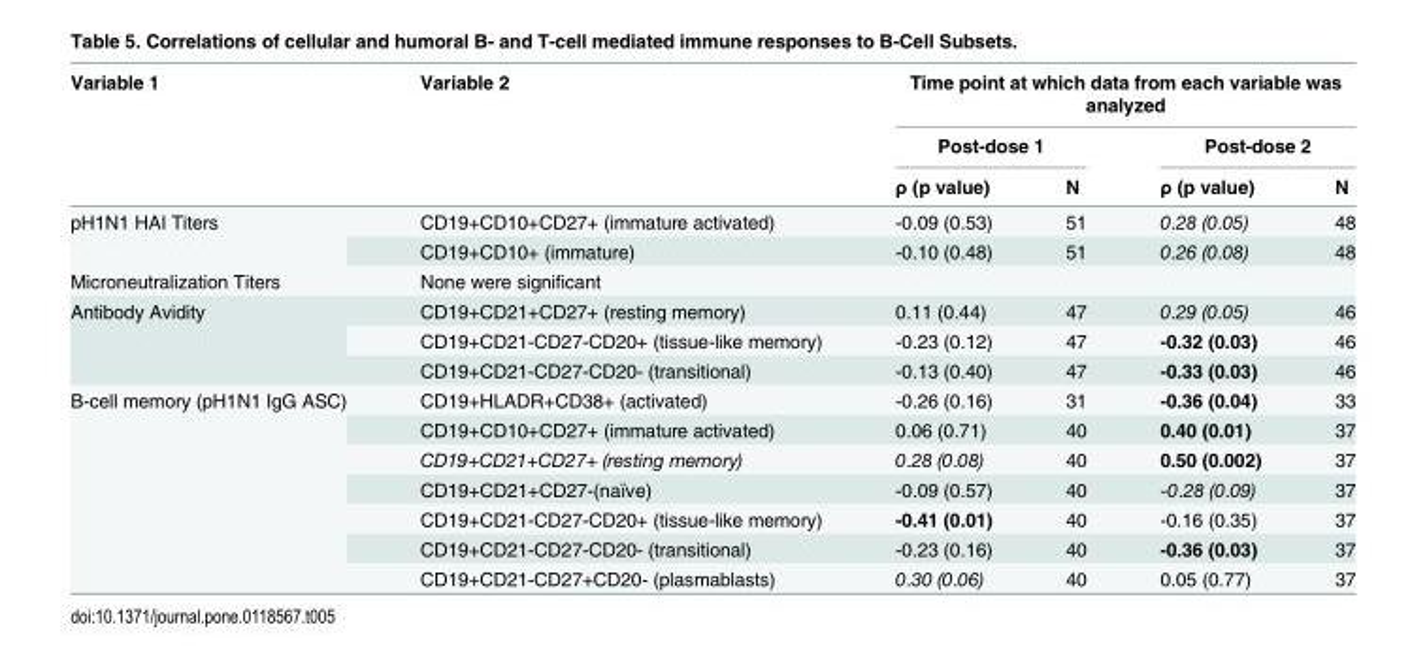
<table><thead><tr><td rowspan="3">Variable 1</td><td rowspan="3">Variable 2</td><td colspan="4">Time point at which data from each variable was analyzed</td></tr><tr><td colspan="2">Post-dose 1</td><td colspan="2">Post-dose 2</td></tr><tr><td>ρ (p value)</td><td>N</td><td>ρ (p value)</td><td>N</td></tr></thead><tbody><tr><td rowspan="2">pH1N1 HAI Titers</td><td>CD19+CD10+CD27+ (immature activated)</td><td>-0.09 (0.53)</td><td>51</td><td>0.28 (0.05)</td><td>48</td></tr><tr><td>CD19+CD10+ (immature)</td><td>-0.10 (0.48)</td><td>51</td><td>0.26 (0.08)</td><td>48</td></tr><tr><td>Microneutralization Titers</td><td>None were significant</td><td></td><td></td><td></td><td></td></tr><tr><td rowspan="3">Antibody Avidity</td><td>CD19+CD21+CD27+ (resting memory)</td><td>0.11 (0.44)</td><td>47</td><td>0.29 (0.05)</td><td>46</td></tr><tr><td>CD19+CD21-CD27-CD20+ (tissue-like memory)</td><td>-0.23 (0.12)</td><td>47</td><td>-0.32 (0.03)</td><td>46</td></tr><tr><td>CD19+CD21-CD27-CD20- (transitional)</td><td>-0.13 (0.40)</td><td>47</td><td>-0.33 (0.03)</td><td>46</td></tr><tr><td rowspan="7">B-cell memory (pH1N1 IgG ASC)</td><td>CD19+HLADR+CD38+ (activated)</td><td>-0.26 (0.16)</td><td>31</td><td>-0.36 (0.04)</td><td>33</td></tr><tr><td>CD19+CD10+CD27+ (immature activated)</td><td>0.06 (0.71)</td><td>40</td><td>0.40 (0.01)</td><td>37</td></tr><tr><td>CD19+CD21+CD27+ (resting memory)</td><td>0.28 (0.08)</td><td>40</td><td>0.50 (0.002)</td><td>37</td></tr><tr><td>CD19+CD21+CD27-(naïve)</td><td>-0.09 (0.57)</td><td>40</td><td>-0.28 (0.09)</td><td>37</td></tr><tr><td>CD19+CD21-CD27-CD20+ (tissue-like memory)</td><td>-0.41 (0.01)</td><td>40</td><td>-0.16 (0.35)</td><td>37</td></tr><tr><td>CD19+CD21-CD27-CD20- (transitional)</td><td>-0.23 (0.16)</td><td>40</td><td>-0.36 (0.03)</td><td>37</td></tr><tr><td>CD19+CD21-CD27+CD20- (plasmablasts)</td><td>0.30 (0.06)</td><td>40</td><td>0.05 (0.77)</td><td>37</td></tr></tbody></table>